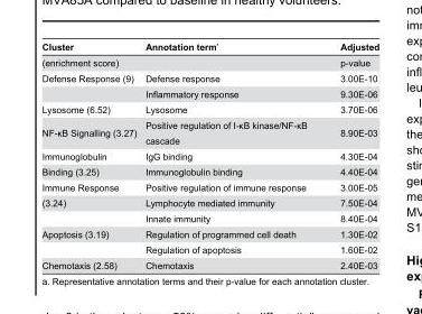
<table><thead><tr><td>Cluster</td><td>Annotation term <sup>a</sup></td><td>Adjusted</td></tr></thead><tbody><tr><td>(enrichment score)</td><td></td><td>p-value</td></tr><tr><td rowspan="2">Defense Response (9)</td><td>Defense response</td><td>3.00E-10</td></tr><tr><td>Inflammatory response</td><td>9.30E-06</td></tr><tr><td>Lysosome (6.52)</td><td>Lysosome</td><td>3.70E-06</td></tr><tr><td>NF-κB Signalling (3.27)</td><td>Positive regulation of I-κB kinase/NF-κB cascade</td><td>8.90E-03</td></tr><tr><td>Immunoglobulin</td><td>IgG binding</td><td>4.30E-04</td></tr><tr><td>Binding (3.25)</td><td>Immunoglobulin binding</td><td>4.40E-04</td></tr><tr><td>Immune Response</td><td>Positive regulation of immune response</td><td>3.00E-05</td></tr><tr><td rowspan="2">(3.24)</td><td>Lymphocyte mediated immunity</td><td>7.50E-04</td></tr><tr><td>Innate immunity</td><td>8.40E-04</td></tr><tr><td rowspan="2">Apoptosis (3.19)</td><td>Regulation of programmed cell death</td><td>1.30E-02</td></tr><tr><td>Regulation of apoptosis</td><td>1.60E-02</td></tr><tr><td>Chemotaxis (2.58)</td><td>Chemotaxis</td><td>2.40E-03</td></tr></tbody></table>